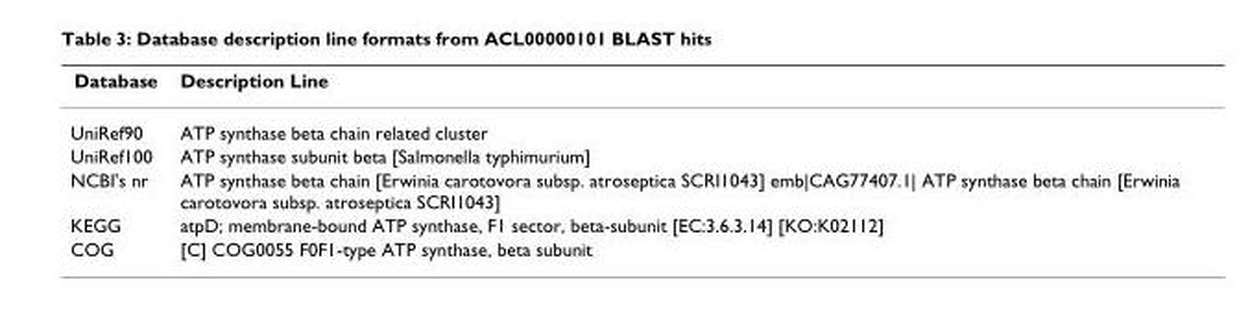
<table><thead><tr><td>Database</td><td>Description Line</td></tr></thead><tbody><tr><td>UniRef90</td><td>ATP synthase beta chain related cluster</td></tr><tr><td>UniRef100</td><td>ATP synthase subunit beta [Salmonella typhimurium]</td></tr><tr><td>NCBI&#x27;s nr</td><td>ATP synthase beta chain [Erwinia carotovora subsp. atroseptica SCRI1043] emb|CAG77407.1| ATP synthase beta chain [Erwinia carotovora subsp. atroseptica SCRI1043]</td></tr><tr><td>KEGG</td><td>atpD; membrane-bound ATP synthase, F1 sector, beta-subunit [EC:3.6.3.14] [KO:K02112]</td></tr><tr><td>COG</td><td>[C] COG0055 F0F1-type ATP synthase, beta subunit</td></tr></tbody></table>